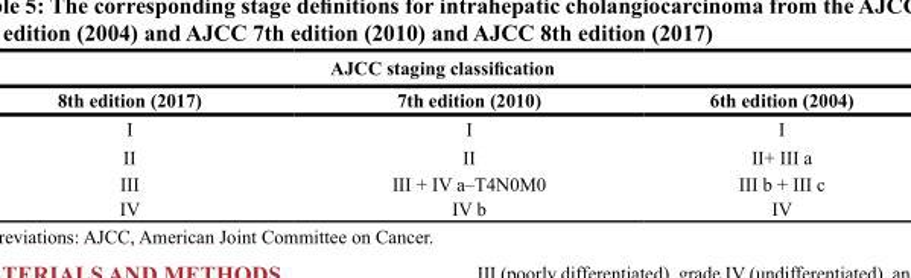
<table><thead><tr><td colspan="3">AJCC staging classification</td></tr><tr><td>8th edition (2017)</td><td>7th edition (2010)</td><td>6th edition (2004)</td></tr></thead><tbody><tr><td>I</td><td>I</td><td>I</td></tr><tr><td>II</td><td>II</td><td>II+ III a</td></tr><tr><td>III</td><td>III + IV a–T4N0M0</td><td>III b + III c</td></tr><tr><td>IV</td><td>IV b</td><td>IV</td></tr></tbody></table>